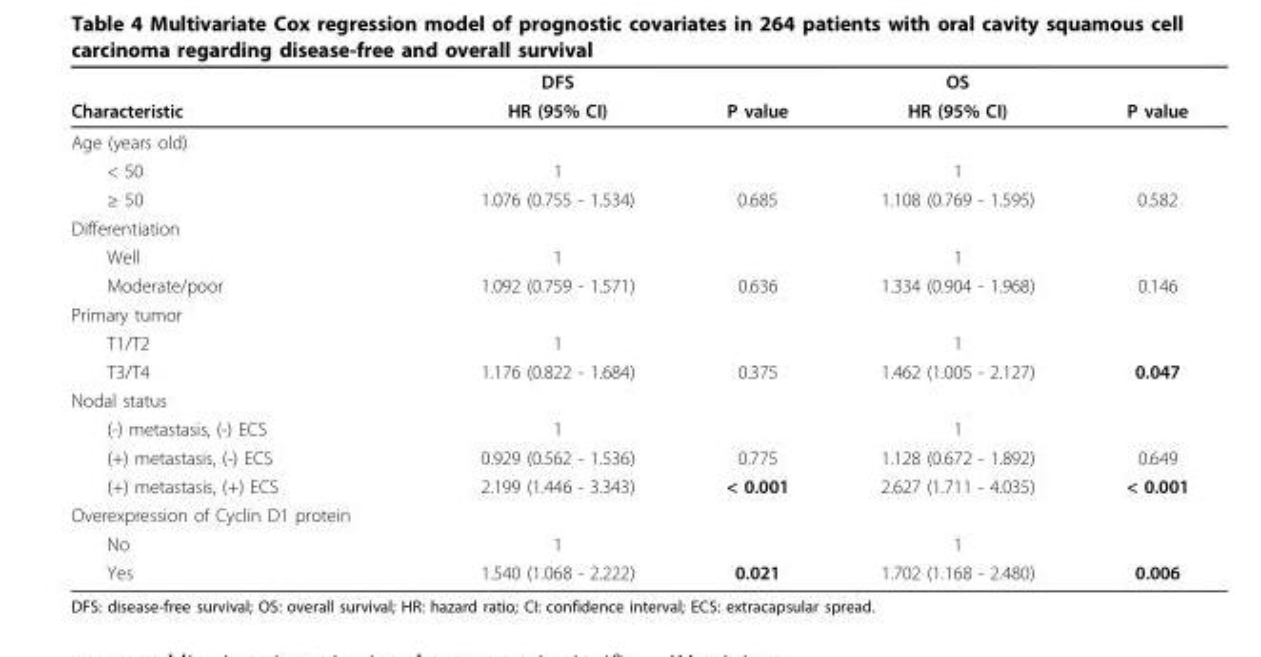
<table><thead><tr><td rowspan="2">Characteristic</td><td rowspan="2">DFS HR (95% CI)</td><td rowspan="2">P value</td><td rowspan="2">OS HR (95% CI)</td><td rowspan="2">P value</td></tr><tr></tr></thead><tbody><tr><td colspan="5">Age (years old)</td></tr><tr><td>&lt; 50</td><td>1</td><td></td><td>1</td><td></td></tr><tr><td>≥ 50</td><td>1.076 (0.755 - 1.534)</td><td>0.685</td><td>1.108 (0.769 - 1.595)</td><td>0.582</td></tr><tr><td colspan="5">Differentiation</td></tr><tr><td>Well</td><td>1</td><td></td><td>1</td><td></td></tr><tr><td>Moderate/poor</td><td>1.092 (0.759 - 1.571)</td><td>0.636</td><td>1.334 (0.904 - 1.968)</td><td>0.146</td></tr><tr><td colspan="5">Primary tumor</td></tr><tr><td>T1/T2</td><td>1</td><td></td><td>1</td><td></td></tr><tr><td>T3/T4</td><td>1.176 (0.822 - 1.684)</td><td>0.375</td><td>1.462 (1.005 - 2.127)</td><td>0.047</td></tr><tr><td colspan="5">Nodal status</td></tr><tr><td>(-) metastasis, (-) ECS</td><td>1</td><td></td><td>1</td><td></td></tr><tr><td>(+) metastasis, (-) ECS</td><td>0.929 (0.562 - 1.536)</td><td>0.775</td><td>1.128 (0.672 - 1.892)</td><td>0.649</td></tr><tr><td>(+) metastasis, (+) ECS</td><td>2.199 (1.446 - 3.343)</td><td>&lt; 0.001</td><td>2.627 (1.711 - 4.035)</td><td>&lt; 0.001</td></tr><tr><td colspan="5">Overexpression of Cyclin D1 protein</td></tr><tr><td>No</td><td>1</td><td></td><td>1</td><td></td></tr><tr><td>Yes</td><td>1.540 (1.068 - 2.222)</td><td>0.021</td><td>1.702 (1.168 - 2.480)</td><td>0.006</td></tr></tbody></table>